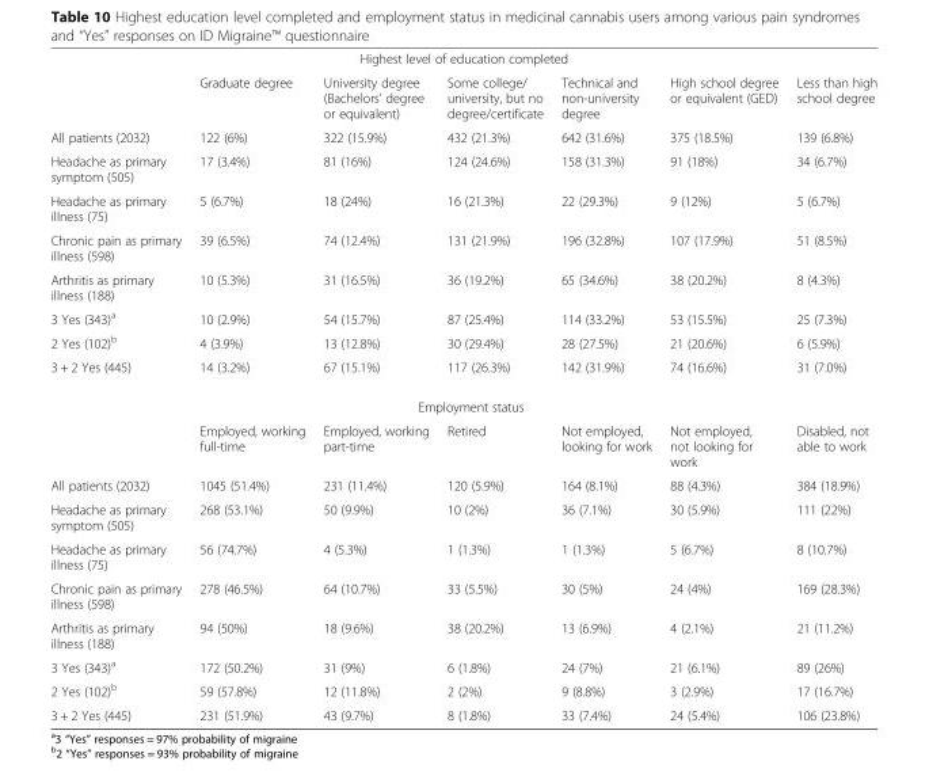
<table><tbody><tr><td colspan="7">Highest level of education completed</td></tr><tr><td></td><td>Graduate degree</td><td>University degree (Bachelors’ degree or equivalent)</td><td>Some college/ university, but no degree/certificate</td><td>Technical and non-university degree</td><td>High school degree or equivalent (GED)</td><td>Less than high school degree</td></tr><tr><td>All patients (2032)</td><td>122 (6%)</td><td>322 (15.9%)</td><td>432 (21.3%)</td><td>642 (31.6%)</td><td>375 (18.5%)</td><td>139 (6.8%)</td></tr><tr><td>Headache as primary symptom (505)</td><td>17 (3.4%)</td><td>81 (16%)</td><td>124 (24.6%)</td><td>158 (31.3%)</td><td>91 (18%)</td><td>34 (6.7%)</td></tr><tr><td>Headache as primary illness (75)</td><td>5 (6.7%)</td><td>18 (24%)</td><td>16 (21.3%)</td><td>22 (29.3%)</td><td>9 (12%)</td><td>5 (6.7%)</td></tr><tr><td>Chronic pain as primary illness (598)</td><td>39 (6.5%)</td><td>74 (12.4%)</td><td>131 (21.9%)</td><td>196 (32.8%)</td><td>107 (17.9%)</td><td>51 (8.5%)</td></tr><tr><td>Arthritis as primary illness (188)</td><td>10 (5.3%)</td><td>31 (16.5%)</td><td>36 (19.2%)</td><td>65 (34.6%)</td><td>38 (20.2%)</td><td>8 (4.3%)</td></tr><tr><td>3 Yes (343)<sup>a</sup></td><td>10 (2.9%)</td><td>54 (15.7%)</td><td>87 (25.4%)</td><td>114 (33.2%)</td><td>53 (15.5%)</td><td>25 (7.3%)</td></tr><tr><td>2 Yes (102)<sup>b</sup></td><td>4 (3.9%)</td><td>13 (12.8%)</td><td>30 (29.4%)</td><td>28 (27.5%)</td><td>21 (20.6%)</td><td>6 (5.9%)</td></tr><tr><td>3 + 2 Yes (445)</td><td>14 (3.2%)</td><td>67 (15.1%)</td><td>117 (26.3%)</td><td>142 (31.9%)</td><td>74 (16.6%)</td><td>31 (7.0%)</td></tr><tr><td colspan="7">Employment status</td></tr><tr><td></td><td>Employed, working full-time</td><td>Employed, working part-time</td><td>Retired</td><td>Not employed, looking for work</td><td>Not employed, not looking for work</td><td>Disabled, not able to work</td></tr><tr><td>All patients (2032)</td><td>1045 (51.4%)</td><td>231 (11.4%)</td><td>120 (5.9%)</td><td>164 (8.1%)</td><td>88 (4.3%)</td><td>384 (18.9%)</td></tr><tr><td>Headache as primary symptom (505)</td><td>268 (53.1%)</td><td>50 (9.9%)</td><td>10 (2%)</td><td>36 (7.1%)</td><td>30 (5.9%)</td><td>111 (22%)</td></tr><tr><td>Headache as primary illness (75)</td><td>56 (74.7%)</td><td>4 (5.3%)</td><td>1 (1.3%)</td><td>1 (1.3%)</td><td>5 (6.7%)</td><td>8 (10.7%)</td></tr><tr><td>Chronic pain as primary illness (598)</td><td>278 (46.5%)</td><td>64 (10.7%)</td><td>33 (5.5%)</td><td>30 (5%)</td><td>24 (4%)</td><td>169 (28.3%)</td></tr><tr><td>Arthritis as primary illness (188)</td><td>94 (50%)</td><td>18 (9.6%)</td><td>38 (20.2%)</td><td>13 (6.9%)</td><td>4 (2.1%)</td><td>21 (11.2%)</td></tr><tr><td>3 Yes (343)<sup>a</sup></td><td>172 (50.2%)</td><td>31 (9%)</td><td>6 (1.8%)</td><td>24 (7%)</td><td>21 (6.1%)</td><td>89 (26%)</td></tr><tr><td>2 Yes (102)<sup>b</sup></td><td>59 (57.8%)</td><td>12 (11.8%)</td><td>2 (2%)</td><td>9 (8.8%)</td><td>3 (2.9%)</td><td>17 (16.7%)</td></tr><tr><td>3 + 2 Yes (445)</td><td>231 (51.9%)</td><td>43 (9.7%)</td><td>8 (1.8%)</td><td>33 (7.4%)</td><td>24 (5.4%)</td><td>106 (23.8%)</td></tr></tbody></table>